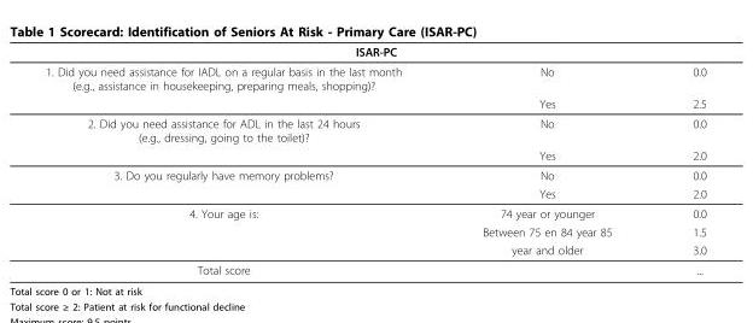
<table><thead><tr><td colspan="3">ISAR-PC</td></tr><tr><td>1. Did you need assistance for IADL on a regular basis in the last month (e.g., assistance in housekeeping, preparing meals, shopping)?</td><td>No</td><td>0.0</td></tr></thead><tbody><tr><td></td><td>Yes</td><td>2.5</td></tr><tr><td rowspan="2">2. Did you need assistance for ADL in the last 24 hours (e.g., dressing, going to the toilet)?</td><td>No</td><td>0.0</td></tr><tr><td>Yes</td><td>2.0</td></tr><tr><td rowspan="2">3. Do you regularly have memory problems?</td><td>No</td><td>0.0</td></tr><tr><td>Yes</td><td>2.0</td></tr><tr><td rowspan="3">4. Your age is:</td><td>74 year or younger</td><td>0.0</td></tr><tr><td>Between 75 en 84 year 85</td><td>1.5</td></tr><tr><td>year and older</td><td>3.0</td></tr><tr><td>Total score</td><td></td><td>...</td></tr></tbody></table>